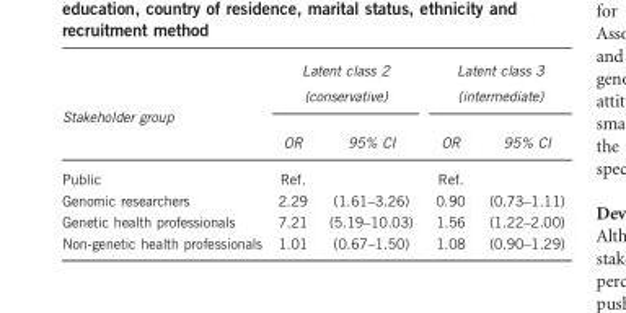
<table><thead><tr><td rowspan="2">Stakeholder group</td><td colspan="2">Latent class 2 (conservative)</td><td colspan="2">Latent class 3 (intermediate)</td></tr><tr><td>OR</td><td>95% CI</td><td>OR</td><td>95% CI</td></tr></thead><tbody><tr><td>Public</td><td>Ref.</td><td></td><td>Ref.</td><td></td></tr><tr><td>Genomic researchers</td><td>2.29</td><td>(1.61–3.26)</td><td>0.90</td><td>(0.73–1.11)</td></tr><tr><td>Genetic health professionals</td><td>7.21</td><td>(5.19–10.03)</td><td>1.56</td><td>(1.22–2.00)</td></tr><tr><td>Non-genetic health professionals</td><td>1.01</td><td>(0.67–1.50)</td><td>1.08</td><td>(0.90–1.29)</td></tr></tbody></table>